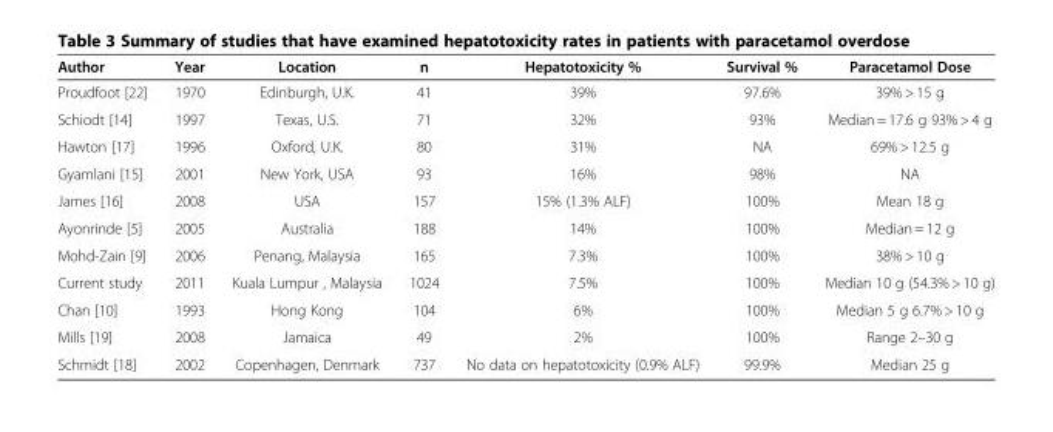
<table><thead><tr><td>Author</td><td>Year</td><td>Location</td><td>n</td><td>Hepatotoxicity %</td><td>Survival %</td><td>Paracetamol Dose</td></tr></thead><tbody><tr><td>Proudfoot [22]</td><td>1970</td><td>Edinburgh, U.K.</td><td>41</td><td>39%</td><td>97.6%</td><td>39% &gt; 15 g</td></tr><tr><td>Schiodt [14]</td><td>1997</td><td>Texas, U.S.</td><td>71</td><td>32%</td><td>93%</td><td>Median = 17.6 g 93% &gt; 4 g</td></tr><tr><td>Hawton [17]</td><td>1996</td><td>Oxford, U.K.</td><td>80</td><td>31%</td><td>NA</td><td>69% &gt; 12.5 g</td></tr><tr><td>Gyamlani [15]</td><td>2001</td><td>New York, USA</td><td>93</td><td>16%</td><td>98%</td><td>NA</td></tr><tr><td>James [16]</td><td>2008</td><td>USA</td><td>157</td><td>15% (1.3% ALF)</td><td>100%</td><td>Mean 18 g</td></tr><tr><td>Ayonrinde [5]</td><td>2005</td><td>Australia</td><td>188</td><td>14%</td><td>100%</td><td>Median = 12 g</td></tr><tr><td>Mohd-Zain [9]</td><td>2006</td><td>Penang, Malaysia</td><td>165</td><td>7.3%</td><td>100%</td><td>38% &gt; 10 g</td></tr><tr><td>Current study</td><td>2011</td><td>Kuala Lumpur , Malaysia</td><td>1024</td><td>7.5%</td><td>100%</td><td>Median 10 g (54.3% &gt; 10 g)</td></tr><tr><td>Chan [10]</td><td>1993</td><td>Hong Kong</td><td>104</td><td>6%</td><td>100%</td><td>Median 5 g 6.7% &gt; 10 g</td></tr><tr><td>Mills [19]</td><td>2008</td><td>Jamaica</td><td>49</td><td>2%</td><td>100%</td><td>Range 2–30 g</td></tr><tr><td>Schmidt [18]</td><td>2002</td><td>Copenhagen, Denmark</td><td>737</td><td>No data on hepatotoxicity (0.9% ALF)</td><td>99.9%</td><td>Median 25 g</td></tr></tbody></table>